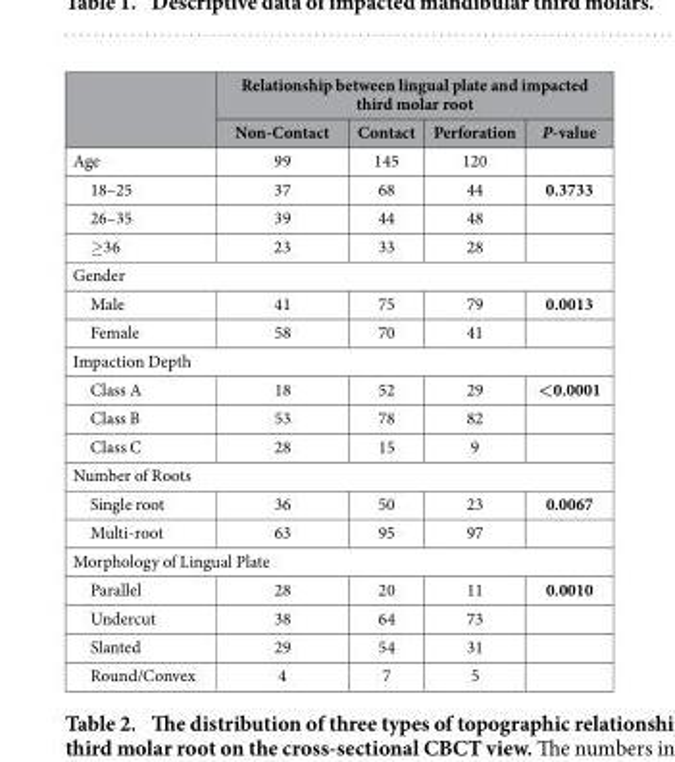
<table><thead><tr><td rowspan="2"></td><td colspan="4">Relationship between lingual plate and impacted third molar root</td></tr><tr><td>Non-Contact</td><td>Contact</td><td>Perforation</td><td>P-value</td></tr></thead><tbody><tr><td>Age</td><td>99</td><td>145</td><td>120</td><td></td></tr><tr><td>18–25</td><td>37</td><td>68</td><td>44</td><td>0.3733</td></tr><tr><td>26–35</td><td>39</td><td>44</td><td>48</td><td></td></tr><tr><td>≥ 36</td><td>23</td><td>33</td><td>28</td><td></td></tr><tr><td colspan="5">Gender</td></tr><tr><td>Male</td><td>41</td><td>75</td><td>79</td><td>0.0013</td></tr><tr><td>Female</td><td>58</td><td>70</td><td>41</td><td></td></tr><tr><td colspan="5">Impaction Depth</td></tr><tr><td>Class A</td><td>18</td><td>52</td><td>29</td><td>&lt;0.0001</td></tr><tr><td>Class B</td><td>53</td><td>78</td><td>82</td><td></td></tr><tr><td>Class C</td><td>28</td><td>15</td><td>9</td><td></td></tr><tr><td colspan="5">Number of Roots</td></tr><tr><td>Single root</td><td>36</td><td>50</td><td>23</td><td>0.0067</td></tr><tr><td>Multi-root</td><td>63</td><td>95</td><td>97</td><td></td></tr><tr><td colspan="5">Morphology of Lingual Plate</td></tr><tr><td>Parallel</td><td>28</td><td>20</td><td>11</td><td>0.0010</td></tr><tr><td>Undercut</td><td>38</td><td>64</td><td>73</td><td></td></tr><tr><td>Slanted</td><td>29</td><td>54</td><td>31</td><td></td></tr><tr><td>Round/Convex</td><td>4</td><td>7</td><td>5</td><td></td></tr></tbody></table>